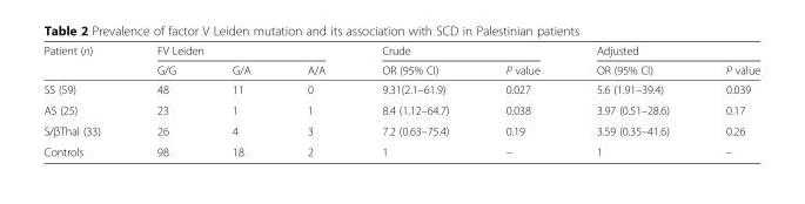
<table><thead><tr><td rowspan="2">Patient (n)</td><td colspan="3">FV Leiden</td><td colspan="2">Crude</td><td colspan="2">Adjusted</td></tr><tr><td>G/G</td><td>G/A</td><td>A/A</td><td>OR (95% CI)</td><td>P value</td><td>OR (95% CI)</td><td>P value</td></tr></thead><tbody><tr><td>SS (59)</td><td>48</td><td>11</td><td>0</td><td>9.31(2.1–61.9)</td><td>0.027</td><td>5.6 (1.91–39.4)</td><td>0.039</td></tr><tr><td>AS (25)</td><td>23</td><td>1</td><td>1</td><td>8.4 (1.12–64.7)</td><td>0.038</td><td>3.97 (0.51–28.6)</td><td>0.17</td></tr><tr><td>S/βThal (33)</td><td>26</td><td>4</td><td>3</td><td>7.2 (0.63–75.4)</td><td>0.19</td><td>3.59 (0.35–41.6)</td><td>0.26</td></tr><tr><td>Controls</td><td>98</td><td>18</td><td>2</td><td>1</td><td>–</td><td>1</td><td>–</td></tr></tbody></table>